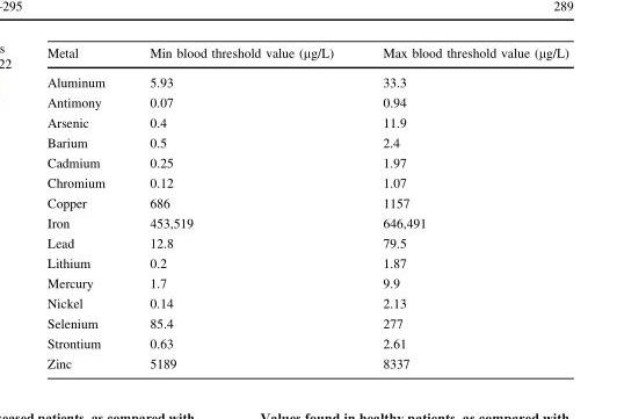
<table><thead><tr><td>Metal</td><td>Min blood threshold value (μg/L)</td><td>Max blood threshold value (μg/L)</td></tr></thead><tbody><tr><td>Aluminum</td><td>5.93</td><td>33.3</td></tr><tr><td>Antimony</td><td>0.07</td><td>0.94</td></tr><tr><td>Arsenic</td><td>0.4</td><td>11.9</td></tr><tr><td>Barium</td><td>0.5</td><td>2.4</td></tr><tr><td>Cadmium</td><td>0.25</td><td>1.97</td></tr><tr><td>Chromium</td><td>0.12</td><td>1.07</td></tr><tr><td>Copper</td><td>686</td><td>1157</td></tr><tr><td>Iron</td><td>453,519</td><td>646,491</td></tr><tr><td>Lead</td><td>12.8</td><td>79.5</td></tr><tr><td>Lithium</td><td>0.2</td><td>1.87</td></tr><tr><td>Mercury</td><td>1.7</td><td>9.9</td></tr><tr><td>Nickel</td><td>0.14</td><td>2.13</td></tr><tr><td>Selenium</td><td>85.4</td><td>277</td></tr><tr><td>Strontium</td><td>0.63</td><td>2.61</td></tr><tr><td>Zinc</td><td>5189</td><td>8337</td></tr></tbody></table>